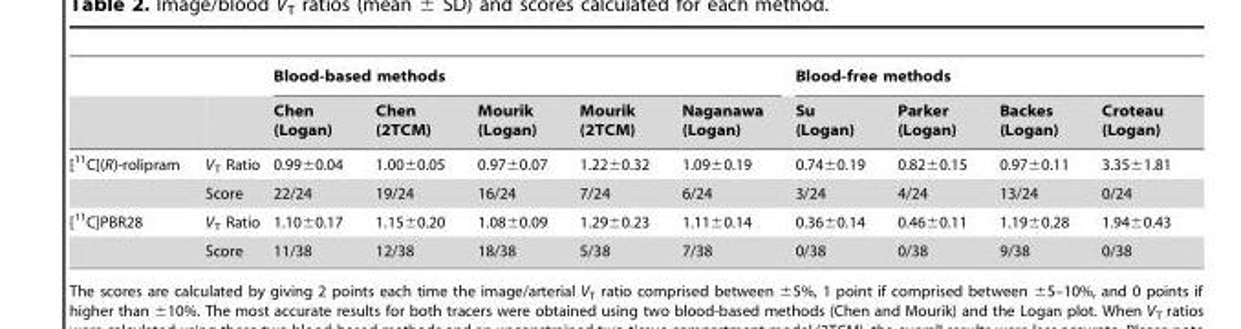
<table><thead><tr><td rowspan="2"></td><td rowspan="2"></td><td colspan="5">Blood-based methods</td><td colspan="4">Blood-free methods</td></tr><tr><td>Chen (Logan)</td><td>Chen (2TCM)</td><td>Mourik (Logan)</td><td>Mourik (2TCM)</td><td>Naganawa (Logan)</td><td>Su (Logan)</td><td>Parker (Logan)</td><td>Backes (Logan)</td><td>Croteau (Logan)</td></tr></thead><tbody><tr><td rowspan="2">[<sup>11</sup>C](R)-rolipram</td><td>V<sub>T</sub> Ratio</td><td>0.99±0.04</td><td>1.00±0.05</td><td>0.97±0.07</td><td>1.22±0.32</td><td>1.09±0.19</td><td>0.74±0.19</td><td>0.82±0.15</td><td>0.97±0.11</td><td>3.35±1.81</td></tr><tr><td>Score</td><td>22/24</td><td>19/24</td><td>16/24</td><td>7/24</td><td>6/24</td><td>3/24</td><td>4/24</td><td>13/24</td><td>0/24</td></tr><tr><td rowspan="2">[<sup>11</sup>C]PBR28</td><td>V<sub>T</sub> Ratio</td><td>1.10±0.17</td><td>1.15±0.20</td><td>1.08±0.09</td><td>1.29±0.23</td><td>1.11±0.14</td><td>0.36±0.14</td><td>0.46±0.11</td><td>1.19±0.28</td><td>1.94±0.43</td></tr><tr><td>Score</td><td>11/38</td><td>12/38</td><td>18/38</td><td>5/38</td><td>7/38</td><td>0/38</td><td>0/38</td><td>9/38</td><td>0/38</td></tr></tbody></table>